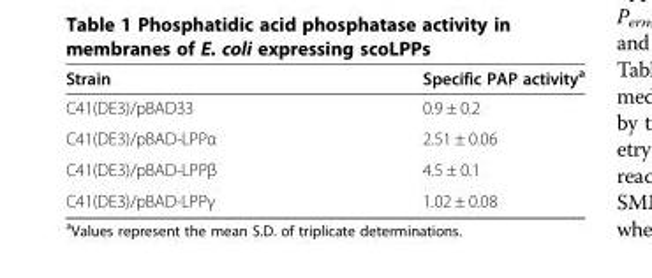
<table><thead><tr><td>Strain</td><td>Specific PAP activity<sup>a</sup></td></tr></thead><tbody><tr><td>C41(DE3)/pBAD33</td><td>0.9 ± 0.2</td></tr><tr><td>C41(DE3)/pBAD-LPPα</td><td>2.51 ± 0.06</td></tr><tr><td>C41(DE3)/pBAD-LPPβ</td><td>4.5 ± 0.1</td></tr><tr><td>C41(DE3)/pBAD-LPPγ</td><td>1.02 ± 0.08</td></tr></tbody></table>